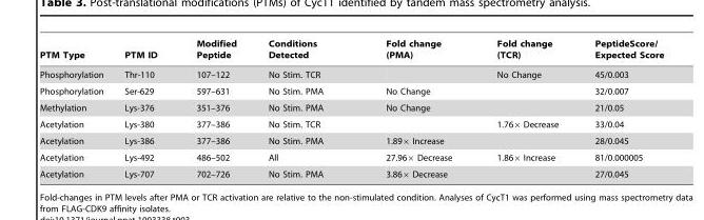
<table><thead><tr><td>PTM Type</td><td>PTM ID</td><td>Modified Peptide</td><td>Conditions Detected</td><td>Fold change (PMA)</td><td>Fold change (TCR)</td><td>PeptideScore/ Expected Score</td></tr></thead><tbody><tr><td>Phosphorylation</td><td>Thr-110</td><td>107–122</td><td>No Stim. TCR</td><td></td><td>No Change</td><td>45/0.003</td></tr><tr><td>Phosphorylation</td><td>Ser-629</td><td>597–631</td><td>No Stim. PMA</td><td>No Change</td><td></td><td>32/0.007</td></tr><tr><td>Methylation</td><td>Lys-376</td><td>351–376</td><td>No Stim. PMA</td><td>No Change</td><td></td><td>21/0.05</td></tr><tr><td>Acetylation</td><td>Lys-380</td><td>377–386</td><td>No Stim. TCR</td><td></td><td>1.76× Decrease</td><td>33/0.04</td></tr><tr><td>Acetylation</td><td>Lys-386</td><td>377–386</td><td>No Stim. PMA</td><td>1.89× Increase</td><td></td><td>28/0.045</td></tr><tr><td>Acetylation</td><td>Lys-492</td><td>486–502</td><td>All</td><td>27.96× Decrease</td><td>1.86× Increase</td><td>81/0.000005</td></tr><tr><td>Acetylation</td><td>Lys-707</td><td>702–726</td><td>No Stim. PMA</td><td>3.86× Decrease</td><td></td><td>27/0.045</td></tr></tbody></table>